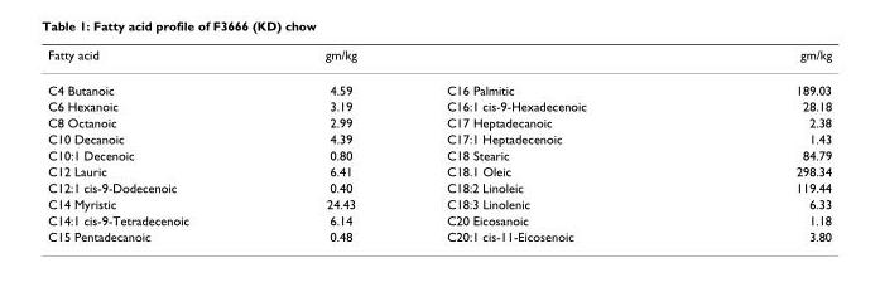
<table><thead><tr><td>Fatty acid</td><td>gm/kg</td><td></td><td>gm/kg</td></tr></thead><tbody><tr><td>C4 Butanoic</td><td>4.59</td><td>C16 Palmitic</td><td>189.03</td></tr><tr><td>C6 Hexanoic</td><td>3.19</td><td>C16:1 cis-9-Hexadecenoic</td><td>28.18</td></tr><tr><td>C8 Octanoic</td><td>2.99</td><td>C17 Heptadecanoic</td><td>2.38</td></tr><tr><td>C10 Decanoic</td><td>4.39</td><td>C17:1 Heptadecenoic</td><td>1.43</td></tr><tr><td>C10:1 Decenoic</td><td>0.80</td><td>C18 Stearic</td><td>84.79</td></tr><tr><td>C12 Lauric</td><td>6.41</td><td>C18.1 Oleic</td><td>298.34</td></tr><tr><td>C12:1 cis-9-Dodecenoic</td><td>0.40</td><td>C18:2 Linoleic</td><td>119.44</td></tr><tr><td>C14 Myristic</td><td>24.43</td><td>C18:3 Linolenic</td><td>6.33</td></tr><tr><td>C14:1 cis-9-Tetradecenoic</td><td>6.14</td><td>C20 Eicosanoic</td><td>1.18</td></tr><tr><td>C15 Pentadecanoic</td><td>0.48</td><td>C20:1 cis-11-Eicosenoic</td><td>3.80</td></tr></tbody></table>